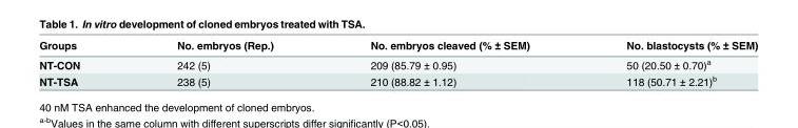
<table><thead><tr><td>Groups</td><td>No. embryos (Rep.)</td><td>No. embryos cleaved (% ± SEM)</td><td>No. blastocysts (% ± SEM)</td></tr></thead><tbody><tr><td>NT-CON</td><td>242 (5)</td><td>209 (85.79 ± 0.95)</td><td>50 (20.50 ± 0.70)<sup>a</sup></td></tr><tr><td>NT-TSA</td><td>238 (5)</td><td>210 (88.82 ± 1.12)</td><td>118 (50.71 ± 2.21)<sup>b</sup></td></tr></tbody></table>